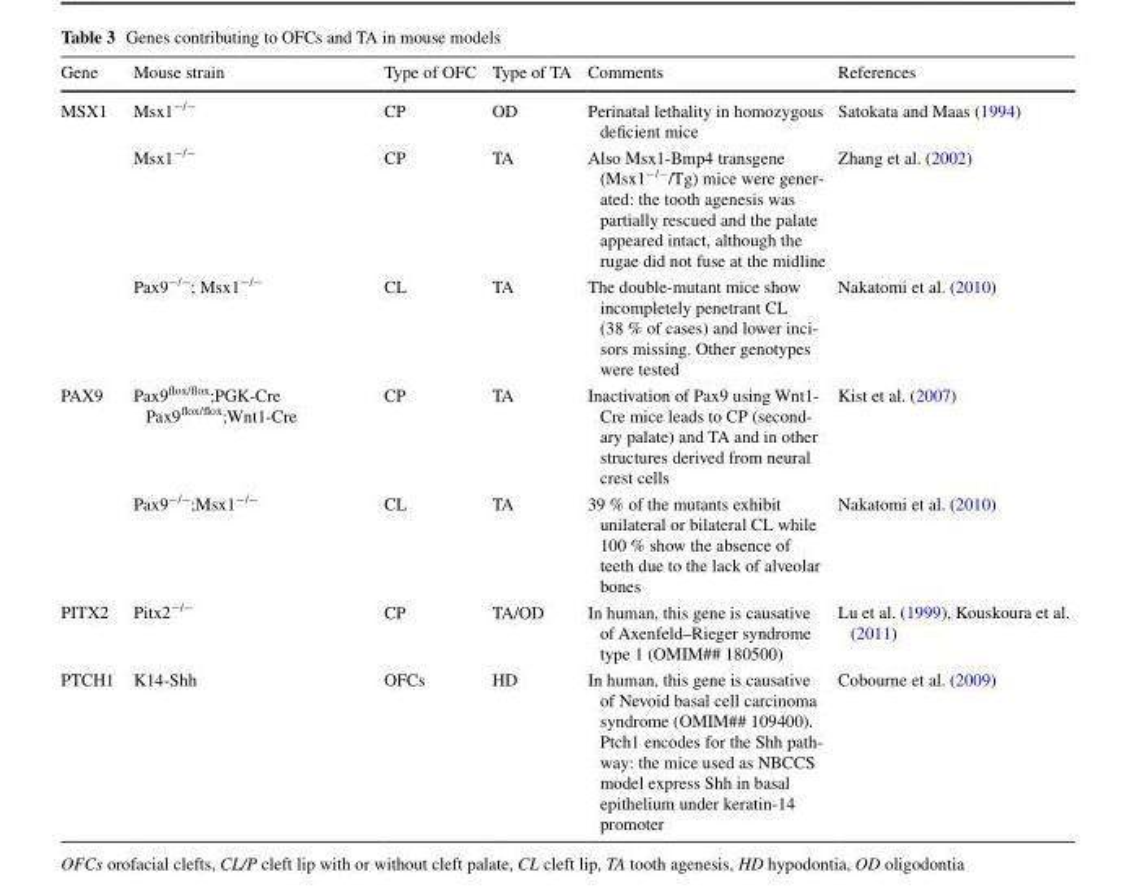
<table><thead><tr><td>Gene</td><td>Mouse strain</td><td>Type of OFC</td><td>Type of TA</td><td>Comments</td><td>References</td></tr></thead><tbody><tr><td rowspan="3">MSX1</td><td>Msx1<sup>−/−</sup></td><td>CP</td><td>OD</td><td>Perinatal lethality in homozygous deficient mice</td><td>Satokata and Maas (1994)</td></tr><tr><td>Msx1<sup>−/−</sup></td><td>CP</td><td>TA</td><td>Also Msx1-Bmp4 transgene (Msx1−/−/Tg) mice were gener- ated: the tooth agenesis was partially rescued and the palate appeared intact, although the rugae did not fuse at the midline</td><td>Zhang et al. (2002)</td></tr><tr><td>Pax9<sup>−/−</sup>; Msx1<sup>−/−</sup></td><td>CL</td><td>TA</td><td>The double-mutant mice show incompletely penetrant CL (38 % of cases) and lower inci- sors missing. Other genotypes were tested</td><td>Nakatomi et al. (2010)</td></tr><tr><td rowspan="2">PAX9</td><td>Pax9<sup>flox/flox</sup>;PGK-Cre Pax9<sup>flox/flox</sup>;Wnt1-Cre</td><td>CP</td><td>TA</td><td>Inactivation of Pax9 using Wnt1- Cre mice leads to CP (second- ary palate) and TA and in other structures derived from neural crest cells</td><td>Kist et al. (2007)</td></tr><tr><td>Pax9<sup>−/−</sup>;Msx1<sup>−/−</sup></td><td>CL</td><td>TA</td><td>39 % of the mutants exhibit unilateral or bilateral CL while 100 % show the absence of teeth due to the lack of alveolar bones</td><td>Nakatomi et al. (2010)</td></tr><tr><td>PITX2</td><td>Pitx2<sup>−/−</sup></td><td>CP</td><td>TA/OD</td><td>In human, this gene is causative of Axenfeld–Rieger syndrome type 1 (OMIM## 180500)</td><td>Lu et al. (1999), Kouskoura et al. (2011)</td></tr><tr><td>PTCH1</td><td>K14-Shh</td><td>OFCs</td><td>HD</td><td>In human, this gene is causative of Nevoid basal cell carcinoma syndrome (OMIM## 109400). Ptch1 encodes for the Shh path- way: the mice used as NBCCS model express Shh in basal epithelium under keratin-14 promoter</td><td>Cobourne et al. (2009)</td></tr></tbody></table>